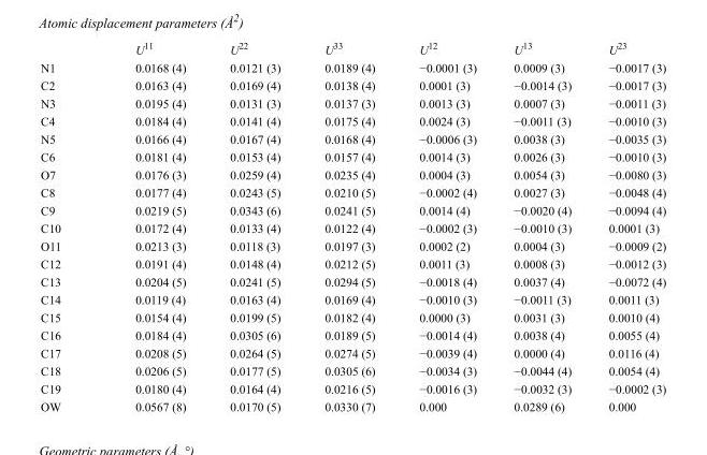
<table><thead><tr><td></td><td>U<sup>11</sup></td><td>U<sup>22</sup></td><td>U<sup>33</sup></td><td>U<sup>12</sup></td><td>U<sup>13</sup></td><td>U<sup>23</sup></td></tr></thead><tbody><tr><td>N1</td><td>0.0168 (4)</td><td>0.0121 (3)</td><td>0.0189 (4)</td><td>−0.0001 (3)</td><td>0.0009 (3)</td><td>−0.0017 (3)</td></tr><tr><td>C2</td><td>0.0163 (4)</td><td>0.0169 (4)</td><td>0.0138 (4)</td><td>0.0001 (3)</td><td>−0.0014 (3)</td><td>−0.0017 (3)</td></tr><tr><td>N3</td><td>0.0195 (4)</td><td>0.0131 (3)</td><td>0.0137 (3)</td><td>0.0013 (3)</td><td>0.0007 (3)</td><td>−0.0011 (3)</td></tr><tr><td>C4</td><td>0.0184 (4)</td><td>0.0141 (4)</td><td>0.0175 (4)</td><td>0.0024 (3)</td><td>−0.0011 (3)</td><td>−0.0010 (3)</td></tr><tr><td>N5</td><td>0.0166 (4)</td><td>0.0167 (4)</td><td>0.0168 (4)</td><td>−0.0006 (3)</td><td>0.0038 (3)</td><td>−0.0035 (3)</td></tr><tr><td>C6</td><td>0.0181 (4)</td><td>0.0153 (4)</td><td>0.0157 (4)</td><td>0.0014 (3)</td><td>0.0026 (3)</td><td>−0.0010 (3)</td></tr><tr><td>O7</td><td>0.0176 (3)</td><td>0.0259 (4)</td><td>0.0235 (4)</td><td>0.0004 (3)</td><td>0.0054 (3)</td><td>−0.0080 (3)</td></tr><tr><td>C8</td><td>0.0177 (4)</td><td>0.0243 (5)</td><td>0.0210 (5)</td><td>−0.0002 (4)</td><td>0.0027 (3)</td><td>−0.0048 (4)</td></tr><tr><td>C9</td><td>0.0219 (5)</td><td>0.0343 (6)</td><td>0.0241 (5)</td><td>0.0014 (4)</td><td>−0.0020 (4)</td><td>−0.0094 (4)</td></tr><tr><td>C10</td><td>0.0172 (4)</td><td>0.0133 (4)</td><td>0.0122 (4)</td><td>−0.0002 (3)</td><td>−0.0010 (3)</td><td>0.0001 (3)</td></tr><tr><td>O11</td><td>0.0213 (3)</td><td>0.0118 (3)</td><td>0.0197 (3)</td><td>0.0002 (2)</td><td>0.0004 (3)</td><td>−0.0009 (2)</td></tr><tr><td>C12</td><td>0.0191 (4)</td><td>0.0148 (4)</td><td>0.0212 (5)</td><td>0.0011 (3)</td><td>0.0008 (3)</td><td>−0.0012 (3)</td></tr><tr><td>C13</td><td>0.0204 (5)</td><td>0.0241 (5)</td><td>0.0294 (5)</td><td>−0.0018 (4)</td><td>0.0037 (4)</td><td>−0.0072 (4)</td></tr><tr><td>C14</td><td>0.0119 (4)</td><td>0.0163 (4)</td><td>0.0169 (4)</td><td>−0.0010 (3)</td><td>−0.0011 (3)</td><td>0.0011 (3)</td></tr><tr><td>C15</td><td>0.0154 (4)</td><td>0.0199 (5)</td><td>0.0182 (4)</td><td>0.0000 (3)</td><td>0.0031 (3)</td><td>0.0010 (4)</td></tr><tr><td>C16</td><td>0.0184 (4)</td><td>0.0305 (6)</td><td>0.0189 (5)</td><td>−0.0014 (4)</td><td>0.0038 (4)</td><td>0.0055 (4)</td></tr><tr><td>C17</td><td>0.0208 (5)</td><td>0.0264 (5)</td><td>0.0274 (5)</td><td>−0.0039 (4)</td><td>0.0000 (4)</td><td>0.0116 (4)</td></tr><tr><td>C18</td><td>0.0206 (5)</td><td>0.0177 (5)</td><td>0.0305 (6)</td><td>−0.0034 (3)</td><td>−0.0044 (4)</td><td>0.0054 (4)</td></tr><tr><td>C19</td><td>0.0180 (4)</td><td>0.0164 (4)</td><td>0.0216 (5)</td><td>−0.0016 (3)</td><td>−0.0032 (3)</td><td>−0.0002 (3)</td></tr><tr><td>OW</td><td>0.0567 (8)</td><td>0.0170 (5)</td><td>0.0330 (7)</td><td>0.000</td><td>0.0289 (6)</td><td>0.000</td></tr></tbody></table>